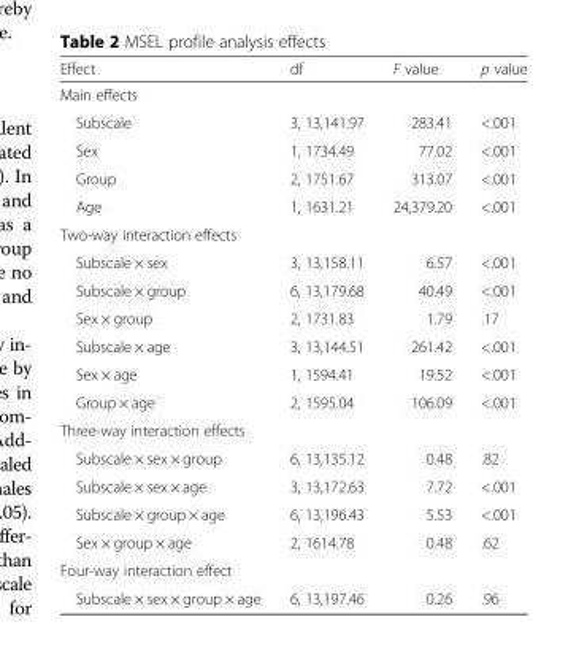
<table><thead><tr><td>Effect</td><td>df</td><td>F value</td><td>p value</td></tr></thead><tbody><tr><td colspan="4">Main effects</td></tr><tr><td>Subscale</td><td>3, 13,141.97</td><td>283.41</td><td>&lt;.001</td></tr><tr><td>Sex</td><td>1, 1734.49</td><td>77.02</td><td>&lt;.001</td></tr><tr><td>Group</td><td>2, 1751.67</td><td>313.07</td><td>&lt;.001</td></tr><tr><td>Age</td><td>1, 1631.21</td><td>24,379.20</td><td>&lt;.001</td></tr><tr><td colspan="4">Two-way interaction effects</td></tr><tr><td>Subscale × sex</td><td>3, 13,158.11</td><td>6.57</td><td>&lt;.001</td></tr><tr><td>Subscale × group</td><td>6, 13,179.68</td><td>40.49</td><td>&lt;.001</td></tr><tr><td>Sex × group</td><td>2, 1731.83</td><td>1.79</td><td>.17</td></tr><tr><td>Subscale × age</td><td>3, 13,144.51</td><td>261.42</td><td>&lt;.001</td></tr><tr><td>Sex × age</td><td>1, 1594.41</td><td>19.52</td><td>&lt;.001</td></tr><tr><td>Group × age</td><td>2, 1595.04</td><td>106.09</td><td>&lt;.001</td></tr><tr><td colspan="4">Three-way interaction effects</td></tr><tr><td>Subscale × sex × group</td><td>6, 13,135.12</td><td>0.48</td><td>.82</td></tr><tr><td>Subscale × sex × age</td><td>3, 13,172.63</td><td>7.72</td><td>&lt;.001</td></tr><tr><td>Subscale × group × age</td><td>6, 13,196.43</td><td>5.53</td><td>&lt;.001</td></tr><tr><td>Sex × group × age</td><td>2, 1614.78</td><td>0.48</td><td>.62</td></tr><tr><td colspan="4">Four-way interaction effect</td></tr><tr><td>Subscale × sex × group × age</td><td>6, 13,197.46</td><td>0.26</td><td>.96</td></tr></tbody></table>